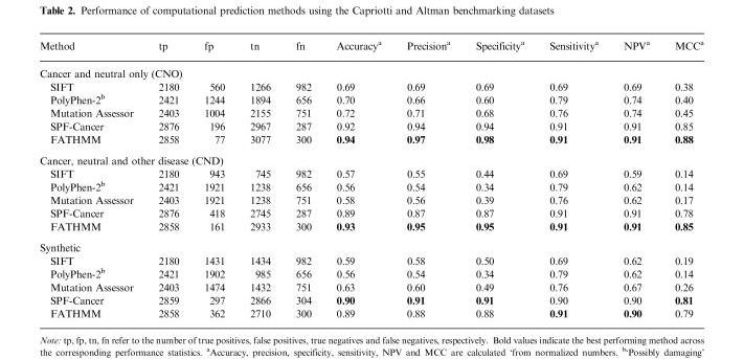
<table><thead><tr><td>Method</td><td>tp</td><td>fp</td><td>tn</td><td>fn</td><td>Accuracy<sup>a</sup></td><td>Precision<sup>a</sup></td><td>Specificity<sup>a</sup></td><td>Sensitivity<sup>a</sup></td><td>NPV<sup>a</sup></td><td>MCC<sup>a</sup></td></tr></thead><tbody><tr><td colspan="11">Cancer and neutral only (CNO)</td></tr><tr><td>SIFT</td><td>2180</td><td>560</td><td>1266</td><td>982</td><td>0.69</td><td>0.69</td><td>0.69</td><td>0.69</td><td>0.69</td><td>0.38</td></tr><tr><td>PolyPhen-2<sup>b</sup></td><td>2421</td><td>1244</td><td>1894</td><td>656</td><td>0.70</td><td>0.66</td><td>0.60</td><td>0.79</td><td>0.74</td><td>0.40</td></tr><tr><td>Mutation Assessor</td><td>2403</td><td>1004</td><td>2155</td><td>751</td><td>0.72</td><td>0.71</td><td>0.68</td><td>0.76</td><td>0.74</td><td>0.45</td></tr><tr><td>SPF-Cancer</td><td>2876</td><td>196</td><td>2967</td><td>287</td><td>0.92</td><td>0.94</td><td>0.94</td><td>0.91</td><td>0.91</td><td>0.85</td></tr><tr><td>FATHMM</td><td>2858</td><td>77</td><td>3077</td><td>300</td><td>0.94</td><td>0.97</td><td>0.98</td><td>0.91</td><td>0.91</td><td>0.88</td></tr><tr><td colspan="11">Cancer, neutral and other disease (CND)</td></tr><tr><td>SIFT</td><td>2180</td><td>943</td><td>745</td><td>982</td><td>0.57</td><td>0.55</td><td>0.44</td><td>0.69</td><td>0.59</td><td>0.14</td></tr><tr><td>PolyPhen-2<sup>b</sup></td><td>2421</td><td>1921</td><td>1238</td><td>656</td><td>0.56</td><td>0.54</td><td>0.34</td><td>0.79</td><td>0.62</td><td>0.14</td></tr><tr><td>Mutation Assessor</td><td>2403</td><td>1921</td><td>1238</td><td>751</td><td>0.58</td><td>0.56</td><td>0.39</td><td>0.76</td><td>0.62</td><td>0.17</td></tr><tr><td>SPF-Cancer</td><td>2876</td><td>418</td><td>2745</td><td>287</td><td>0.89</td><td>0.87</td><td>0.87</td><td>0.91</td><td>0.91</td><td>0.78</td></tr><tr><td>FATHMM</td><td>2858</td><td>161</td><td>2933</td><td>300</td><td>0.93</td><td>0.95</td><td>0.95</td><td>0.91</td><td>0.91</td><td>0.85</td></tr><tr><td colspan="11">Synthetic</td></tr><tr><td>SIFT</td><td>2180</td><td>1431</td><td>1434</td><td>982</td><td>0.59</td><td>0.58</td><td>0.50</td><td>0.69</td><td>0.62</td><td>0.19</td></tr><tr><td>PolyPhen-2<sup>b</sup></td><td>2421</td><td>1902</td><td>985</td><td>656</td><td>0.56</td><td>0.54</td><td>0.34</td><td>0.79</td><td>0.62</td><td>0.14</td></tr><tr><td>Mutation Assessor</td><td>2403</td><td>1474</td><td>1432</td><td>751</td><td>0.63</td><td>0.60</td><td>0.49</td><td>0.76</td><td>0.67</td><td>0.26</td></tr><tr><td>SPF-Cancer</td><td>2859</td><td>297</td><td>2866</td><td>304</td><td>0.90</td><td>0.91</td><td>0.91</td><td>0.90</td><td>0.90</td><td>0.81</td></tr><tr><td>FATHMM</td><td>2858</td><td>362</td><td>2710</td><td>300</td><td>0.89</td><td>0.88</td><td>0.88</td><td>0.91</td><td>0.90</td><td>0.79</td></tr></tbody></table>